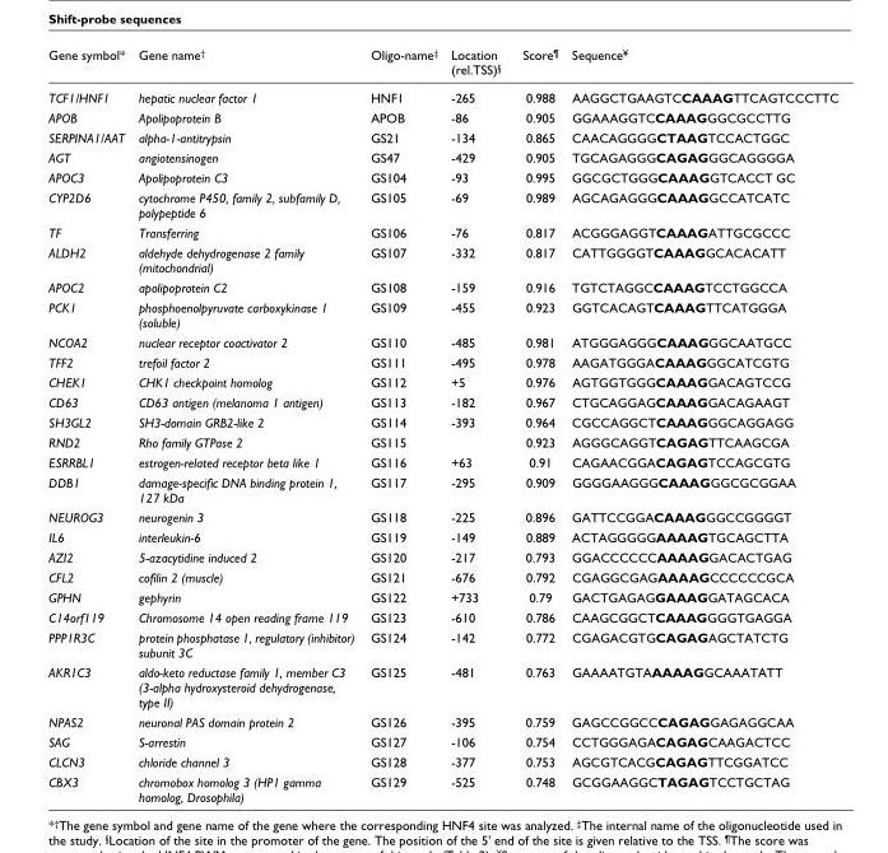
<table><thead><tr><td>Gene symbol*</td><td>Gene name<sup>†</sup></td><td>Oligo-name<sup>‡</sup></td><td>Location (rel.TSS)<sup>§</sup></td><td>Score<sup>¶</sup></td><td>Sequence<sup>¥</sup></td></tr></thead><tbody><tr><td>TCF1/HNF1</td><td>hepatic nuclear factor 1</td><td>HNF1</td><td>-265</td><td>0.988</td><td>AAGGCTGAAGTCCAAAGTTCAGTCCCTTC</td></tr><tr><td>APOB</td><td>Apolipoprotein B</td><td>APOB</td><td>-86</td><td>0.905</td><td>GGAAAGGTCCAAAGGGCGCCTTG</td></tr><tr><td>SERPINA1/AAT</td><td>alpha-1-antitrypsin</td><td>GS21</td><td>-134</td><td>0.865</td><td>CAACAGGGGCTAAGTCCACTGGC</td></tr><tr><td>AGT</td><td>angiotensinogen</td><td>GS47</td><td>-429</td><td>0.905</td><td>TGCAGAGGGCAGAGGGCAGGGGA</td></tr><tr><td>APOC3</td><td>Apolipoprotein C3</td><td>GS104</td><td>-93</td><td>0.995</td><td>GGCGCTGGGCAAAGGTCACCT GC</td></tr><tr><td>CYP2D6</td><td>cytochrome P450, family 2, subfamily D, polypeptide 6</td><td>GS105</td><td>-69</td><td>0.989</td><td>AGCAGAGGGCAAAGGCCATCATC</td></tr><tr><td>TF</td><td>Transferring</td><td>GS106</td><td>-76</td><td>0.817</td><td>ACGGGAGGTCAAAGATTGCGCCC</td></tr><tr><td>ALDH2</td><td>aldehyde dehydrogenase 2 family (mitochondrial)</td><td>GS107</td><td>-332</td><td>0.817</td><td>CATTGGGGTCAAAGGCACACATT</td></tr><tr><td>APOC2</td><td>apolipoprotein C2</td><td>GS108</td><td>-159</td><td>0.916</td><td>TGTCTAGGCCAAAGTCCTGGCCA</td></tr><tr><td>PCK1</td><td>phosphoenolpyruvate carboxykinase 1 (soluble)</td><td>GS109</td><td>-455</td><td>0.923</td><td>GGTCACAGTCAAAGTTCATGGGA</td></tr><tr><td>NCOA2</td><td>nuclear receptor coactivator 2</td><td>GS110</td><td>-485</td><td>0.981</td><td>ATGGGAGGGCAAAGGGCAATGCC</td></tr><tr><td>TFF2</td><td>trefoil factor 2</td><td>GS111</td><td>-495</td><td>0.978</td><td>AAGATGGGACAAAGGGCATCGTG</td></tr><tr><td>CHEK1</td><td>CHK1 checkpoint homolog</td><td>GS112</td><td>+5</td><td>0.976</td><td>AGTGGTGGGCAAAGGACAGTCCG</td></tr><tr><td>CD63</td><td>CD63 antigen (melanoma 1 antigen)</td><td>GS113</td><td>-182</td><td>0.967</td><td>CTGCAGGAGCAAAGGACAGAAGT</td></tr><tr><td>SH3GL2</td><td>SH3-domain GRB2-like 2</td><td>GS114</td><td>-393</td><td>0.964</td><td>CGCCAGGCTCAAAGGGCAGGAGG</td></tr><tr><td>RND2</td><td>Rho family GTPase 2</td><td>GS115</td><td></td><td>0.923</td><td>AGGGCAGGTCAGAGTTCAAGCGA</td></tr><tr><td>ESRRBL1</td><td>estrogen-related receptor beta like 1</td><td>GS116</td><td>+63</td><td>0.91</td><td>CAGAACGGACAGAGTCCAGCGTG</td></tr><tr><td>DDB1</td><td>damage-specific DNA binding protein 1, 127 kDa</td><td>GS117</td><td>-295</td><td>0.909</td><td>GGGGAAGGGCAAAGGGCGCGGAA</td></tr><tr><td>NEUROG3</td><td>neurogenin 3</td><td>GS118</td><td>-225</td><td>0.896</td><td>GATTCCGGACAAAGGGCCGGGGT</td></tr><tr><td>IL6</td><td>interleukin-6</td><td>GS119</td><td>-149</td><td>0.889</td><td>ACTAGGGGGAAAAGTGCAGCTTA</td></tr><tr><td>AZI2</td><td>5-azacytidine induced 2</td><td>GS120</td><td>-217</td><td>0.793</td><td>GGACCCCCCAAAAGGACACTGAG</td></tr><tr><td>CFL2</td><td>cofilin 2 (muscle)</td><td>GS121</td><td>-676</td><td>0.792</td><td>CGAGGCGAGAAAAGCCCCCCGCA</td></tr><tr><td>GPHN</td><td>gephyrin</td><td>GS122</td><td>+733</td><td>0.79</td><td>GACTGAGAGGAAAGGATAGCACA</td></tr><tr><td>C14orf119</td><td>Chromosome 14 open reading frame 119</td><td>GS123</td><td>-610</td><td>0.786</td><td>CAAGCGGCTCAAAGGGGTGAGGA</td></tr><tr><td>PPP1R3C</td><td>protein phosphatase 1, regulatory (inhibitor) subunit 3C</td><td>GS124</td><td>-142</td><td>0.772</td><td>CGAGACGTGCAGAGAGCTATCTG</td></tr><tr><td>AKR1C3</td><td>aldo-keto reductase family 1, member C3 (3-alpha hydroxysteroid dehydrogenase, type II)</td><td>GS125</td><td>-481</td><td>0.763</td><td>GAAAATGTAAAAAGGCAAATATT</td></tr><tr><td>NPAS2</td><td>neuronal PAS domain protein 2</td><td>GS126</td><td>-395</td><td>0.759</td><td>GAGCCGGCCCAGAGGAGAGGCAA</td></tr><tr><td>SAG</td><td>S-arrestin</td><td>GS127</td><td>-106</td><td>0.754</td><td>CCTGGGAGACAGAGCAAGACTCC</td></tr><tr><td>CLCN3</td><td>chloride channel 3</td><td>GS128</td><td>-377</td><td>0.753</td><td>AGCGTCACGCAGAGTTCGGATCC</td></tr><tr><td>CBX3</td><td>chromobox homolog 3 (HP1 gamma homolog, Drosophila)</td><td>GS129</td><td>-525</td><td>0.748</td><td>GCGGAAGGCTAGAGTCCTGCTAG</td></tr></tbody></table>